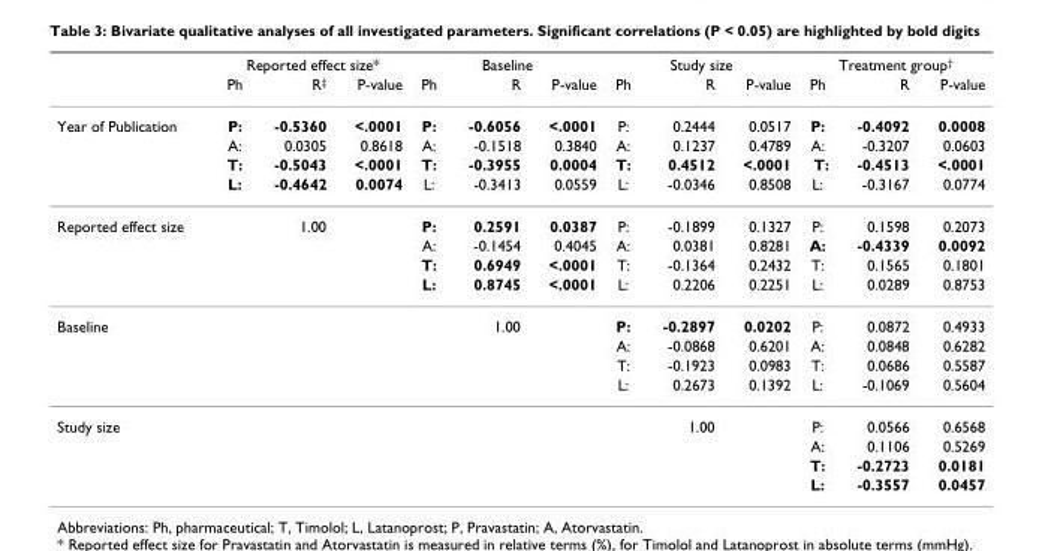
<table><thead><tr><td rowspan="2"></td><td colspan="3">Reported effect size*</td><td colspan="3">Baseline</td><td colspan="3">Study size</td><td colspan="3">Treatment group<sup>†</sup></td></tr><tr><td>Ph</td><td>R<sup>‡</sup></td><td>P-value</td><td>Ph</td><td>R</td><td>P-value</td><td>Ph</td><td>R</td><td>P-value</td><td>Ph</td><td>R</td><td>P-value</td></tr></thead><tbody><tr><td rowspan="4">Year of Publication</td><td>P:</td><td>-0.5360</td><td>&lt;.0001</td><td>P:</td><td>-0.6056</td><td>&lt;.0001</td><td>P:</td><td>0.2444</td><td>0.0517</td><td>P:</td><td>-0.4092</td><td>0.0008</td></tr><tr><td>A:</td><td>0.0305</td><td>0.8618</td><td>A:</td><td>-0.1518</td><td>0.3840</td><td>A:</td><td>0.1237</td><td>0.4789</td><td>A:</td><td>-0.3207</td><td>0.0603</td></tr><tr><td>T:</td><td>-0.5043</td><td>&lt;.0001</td><td>T:</td><td>-0.3955</td><td>0.0004</td><td>T:</td><td>0.4512</td><td>&lt;.0001</td><td>T:</td><td>-0.4513</td><td>&lt;.0001</td></tr><tr><td>L:</td><td>-0.4642</td><td>0.0074</td><td>L:</td><td>-0.3413</td><td>0.0559</td><td>L:</td><td>-0.0346</td><td>0.8508</td><td>L:</td><td>-0.3167</td><td>0.0774</td></tr><tr><td rowspan="4">Reported effect size</td><td colspan="3">1.00</td><td>P:</td><td>0.2591</td><td>0.0387</td><td>P:</td><td>-0.1899</td><td>0.1327</td><td>P:</td><td>0.1598</td><td>0.2073</td></tr><tr><td></td><td></td><td></td><td>A:</td><td>-0.1454</td><td>0.4045</td><td>A:</td><td>0.0381</td><td>0.8281</td><td>A:</td><td>-0.4339</td><td>0.0092</td></tr><tr><td></td><td></td><td></td><td>T:</td><td>0.6949</td><td>&lt;.0001</td><td>T:</td><td>-0.1364</td><td>0.2432</td><td>T:</td><td>0.1565</td><td>0.1801</td></tr><tr><td></td><td></td><td></td><td>L:</td><td>0.8745</td><td>&lt;.0001</td><td>L:</td><td>0.2206</td><td>0.2251</td><td>L:</td><td>0.0289</td><td>0.8753</td></tr><tr><td rowspan="4">Baseline</td><td></td><td></td><td></td><td colspan="3">1.00</td><td>P:</td><td>-0.2897</td><td>0.0202</td><td>P:</td><td>0.0872</td><td>0.4933</td></tr><tr><td></td><td></td><td></td><td></td><td></td><td></td><td>A:</td><td>-0.0868</td><td>0.6201</td><td>A:</td><td>0.0848</td><td>0.6282</td></tr><tr><td></td><td></td><td></td><td></td><td></td><td></td><td>T:</td><td>-0.1923</td><td>0.0983</td><td>T:</td><td>0.0686</td><td>0.5587</td></tr><tr><td></td><td></td><td></td><td></td><td></td><td></td><td>L:</td><td>0.2673</td><td>0.1392</td><td>L:</td><td>-0.1069</td><td>0.5604</td></tr><tr><td rowspan="4">Study size</td><td></td><td></td><td></td><td></td><td></td><td></td><td colspan="3">1.00</td><td>P:</td><td>0.0566</td><td>0.6568</td></tr><tr><td></td><td></td><td></td><td></td><td></td><td></td><td></td><td></td><td></td><td>A:</td><td>0.1106</td><td>0.5269</td></tr><tr><td></td><td></td><td></td><td></td><td></td><td></td><td></td><td></td><td></td><td>T:</td><td>-0.2723</td><td>0.0181</td></tr><tr><td></td><td></td><td></td><td></td><td></td><td></td><td></td><td></td><td></td><td>L:</td><td>-0.3557</td><td>0.0457</td></tr></tbody></table>